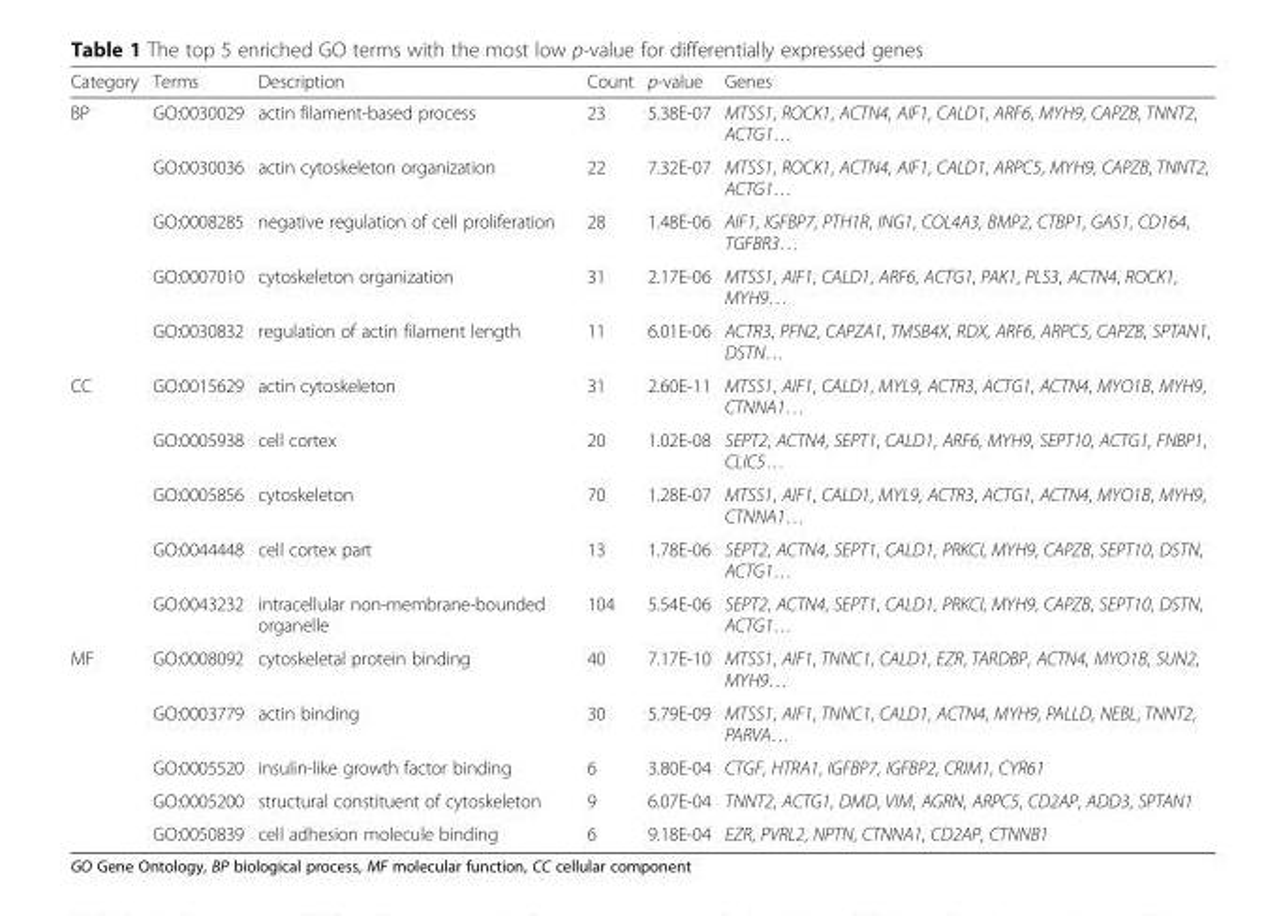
<table><thead><tr><td>Category</td><td>Terms</td><td>Description</td><td>Count</td><td>p-value</td><td>Genes</td></tr></thead><tbody><tr><td rowspan="5">BP</td><td>GO:0030029</td><td>actin filament-based process</td><td>23</td><td>5.38E-07</td><td>MTSS1, ROCK1, ACTN4, AIF1, CALD1, ARF6, MYH9, CAPZB, TNNT2, ACTG1…</td></tr><tr><td>GO:0030036</td><td>actin cytoskeleton organization</td><td>22</td><td>7.32E-07</td><td>MTSS1, ROCK1, ACTN4, AIF1, CALD1, ARPC5, MYH9, CAPZB, TNNT2, ACTG1…</td></tr><tr><td>GO:0008285</td><td>negative regulation of cell proliferation</td><td>28</td><td>1.48E-06</td><td>AIF1, IGFBP7, PTH1R, ING1, COL4A3, BMP2, CTBP1, GAS1, CD164, TGFBR3…</td></tr><tr><td>GO:0007010</td><td>cytoskeleton organization</td><td>31</td><td>2.17E-06</td><td>MTSS1, AIF1, CALD1, ARF6, ACTG1, PAK1, PLS3, ACTN4, ROCK1, MYH9…</td></tr><tr><td>GO:0030832</td><td>regulation of actin filament length</td><td>11</td><td>6.01E-06</td><td>ACTR3, PFN2, CAPZA1, TMSB4X, RDX, ARF6, ARPC5, CAPZB, SPTAN1, DSTN…</td></tr><tr><td rowspan="5">CC</td><td>GO:0015629</td><td>actin cytoskeleton</td><td>31</td><td>2.60E-11</td><td>MTSS1, AIF1, CALD1, MYL9, ACTR3, ACTG1, ACTN4, MYO1B, MYH9, CTNNA1…</td></tr><tr><td>GO:0005938</td><td>cell cortex</td><td>20</td><td>1.02E-08</td><td>SEPT2, ACTN4, SEPT1, CALD1, ARF6, MYH9, SEPT10, ACTG1, FNBP1, CLIC5…</td></tr><tr><td>GO:0005856</td><td>cytoskeleton</td><td>70</td><td>1.28E-07</td><td>MTSS1, AIF1, CALD1, MYL9, ACTR3, ACTG1, ACTN4, MYO1B, MYH9, CTNNA1…</td></tr><tr><td>GO:0044448</td><td>cell cortex part</td><td>13</td><td>1.78E-06</td><td>SEPT2, ACTN4, SEPT1, CALD1, PRKCI, MYH9, CAPZB, SEPT10, DSTN, ACTG1…</td></tr><tr><td>GO:0043232</td><td>intracellular non-membrane-bounded organelle</td><td>104</td><td>5.54E-06</td><td>SEPT2, ACTN4, SEPT1, CALD1, PRKCI, MYH9, CAPZB, SEPT10, DSTN, ACTG1…</td></tr><tr><td rowspan="5">MF</td><td>GO:0008092</td><td>cytoskeletal protein binding</td><td>40</td><td>7.17E-10</td><td>MTSS1, AIF1, TNNC1, CALD1, EZR, TARDBP, ACTN4, MYO1B, SUN2, MYH9…</td></tr><tr><td>GO:0003779</td><td>actin binding</td><td>30</td><td>5.79E-09</td><td>MTSS1, AIF1, TNNC1, CALD1, ACTN4, MYH9, PALLD, NEBL, TNNT2, PARVA…</td></tr><tr><td>GO:0005520</td><td>insulin-like growth factor binding</td><td>6</td><td>3.80E-04</td><td>CTGF, HTRA1, IGFBP7, IGFBP2, CRIM1, CYR61</td></tr><tr><td>GO:0005200</td><td>structural constituent of cytoskeleton</td><td>9</td><td>6.07E-04</td><td>TNNT2, ACTG1, DMD, VIM, AGRN, ARPC5, CD2AP, ADD3, SPTAN1</td></tr><tr><td>GO:0050839</td><td>cell adhesion molecule binding</td><td>6</td><td>9.18E-04</td><td>EZR, PVRL2, NPTN, CTNNA1, CD2AP, CTNNB1</td></tr></tbody></table>